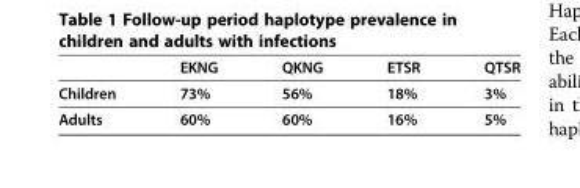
<table><thead><tr><td></td><td>EKNG</td><td>QKNG</td><td>ETSR</td><td>QTSR</td></tr></thead><tbody><tr><td>Children</td><td>73%</td><td>56%</td><td>18%</td><td>3%</td></tr><tr><td>Adults</td><td>60%</td><td>60%</td><td>16%</td><td>5%</td></tr></tbody></table>